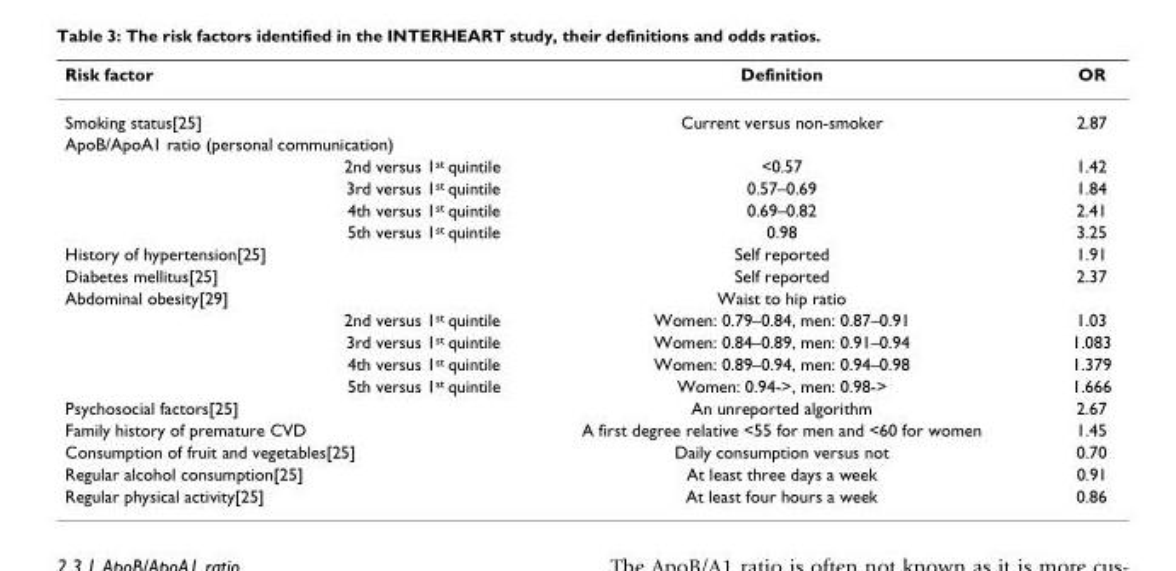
<table><thead><tr><td>Risk factor</td><td>Definition</td><td>OR</td></tr></thead><tbody><tr><td>Smoking status[25]</td><td>Current versus non-smoker</td><td>2.87</td></tr><tr><td colspan="3">ApoB/ApoA1 ratio (personal communication)</td></tr><tr><td>2nd versus 1<sup>st</sup> quintile</td><td>&lt;0.57</td><td>1.42</td></tr><tr><td>3rd versus 1<sup>st</sup> quintile</td><td>0.57–0.69</td><td>1.84</td></tr><tr><td>4th versus 1<sup>st</sup> quintile</td><td>0.69–0.82</td><td>2.41</td></tr><tr><td>5th versus 1<sup>st</sup> quintile</td><td>0.98</td><td>3.25</td></tr><tr><td>History of hypertension[25]</td><td>Self reported</td><td>1.91</td></tr><tr><td>Diabetes mellitus[25]</td><td>Self reported</td><td>2.37</td></tr><tr><td>Abdominal obesity[29]</td><td>Waist to hip ratio</td><td></td></tr><tr><td>2nd versus 1<sup>st</sup> quintile</td><td>Women: 0.79–0.84, men: 0.87–0.91</td><td>1.03</td></tr><tr><td>3rd versus 1<sup>st</sup> quintile</td><td>Women: 0.84–0.89, men: 0.91–0.94</td><td>1.083</td></tr><tr><td>4th versus 1<sup>st</sup> quintile</td><td>Women: 0.89–0.94, men: 0.94–0.98</td><td>1.379</td></tr><tr><td>5th versus 1<sup>st</sup> quintile</td><td>Women: 0.94-&gt;, men: 0.98-&gt;</td><td>1.666</td></tr><tr><td>Psychosocial factors[25]</td><td>An unreported algorithm</td><td>2.67</td></tr><tr><td>Family history of premature CVD</td><td>A first degree relative &lt;55 for men and &lt;60 for women</td><td>1.45</td></tr><tr><td>Consumption of fruit and vegetables[25]</td><td>Daily consumption versus not</td><td>0.70</td></tr><tr><td>Regular alcohol consumption[25]</td><td>At least three days a week</td><td>0.91</td></tr><tr><td>Regular physical activity[25]</td><td>At least four hours a week</td><td>0.86</td></tr></tbody></table>